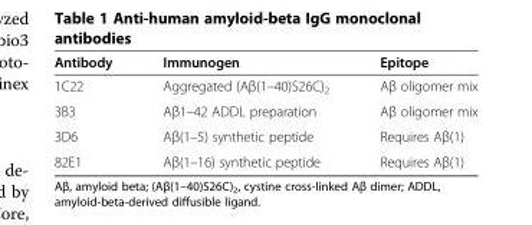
<table><thead><tr><td>Antibody</td><td>Immunogen</td><td>Epitope</td></tr></thead><tbody><tr><td>1C22</td><td>Aggregated (Aβ(1–40)S26C)<sub>2</sub></td><td>Aβ oligomer mix</td></tr><tr><td>3B3</td><td>Aβ1–42 ADDL preparation</td><td>Aβ oligomer mix</td></tr><tr><td>3D6</td><td>Aβ(1–5) synthetic peptide</td><td>Requires Aβ(1)</td></tr><tr><td>82E1</td><td>Aβ(1–16) synthetic peptide</td><td>Requires Aβ(1)</td></tr></tbody></table>